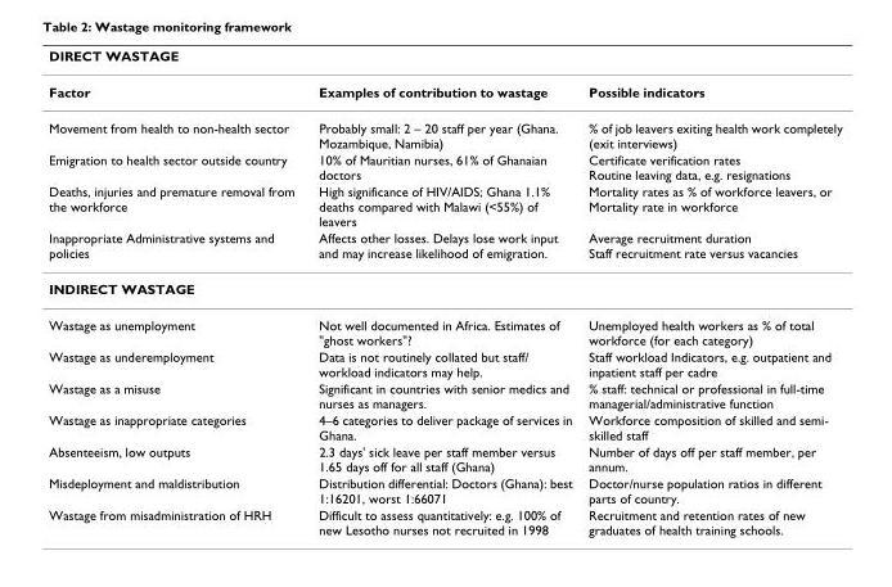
<table><thead><tr><td colspan="3">DIRECT WASTAGE</td></tr><tr><td>Factor</td><td>Examples of contribution to wastage</td><td>Possible indicators</td></tr></thead><tbody><tr><td>Movement from health to non-health sector</td><td>Probably small: 2 – 20 staff per year (Ghana. Mozambique, Namibia)</td><td>% of job leavers exiting health work completely (exit interviews)</td></tr><tr><td>Emigration to health sector outside country</td><td>10% of Mauritian nurses, 61% of Ghanaian doctors</td><td>Certificate verification rates Routine leaving data, e.g. resignations</td></tr><tr><td>Deaths, injuries and premature removal from the workforce</td><td>High significance of HIV/AIDS; Ghana 1.1% deaths compared with Malawi (&lt;55%) of leavers</td><td>Mortality rates as % of workforce leavers, or Mortality rate in workforce</td></tr><tr><td>Inappropriate Administrative systems and policies</td><td>Affects other losses. Delays lose work input and may increase likelihood of emigration.</td><td>Average recruitment duration Staff recruitment rate versus vacancies</td></tr><tr><td colspan="3">INDIRECT WASTAGE</td></tr><tr><td>Wastage as unemployment</td><td>Not well documented in Africa. Estimates of &quot;ghost workers&quot;?</td><td>Unemployed health workers as % of total workforce (for each category)</td></tr><tr><td>Wastage as underemployment</td><td>Data is not routinely collated but staff/ workload indicators may help.</td><td>Staff workload Indicators, e.g. outpatient and inpatient staff per cadre</td></tr><tr><td>Wastage as a misuse</td><td>Significant in countries with senior medics and nurses as managers.</td><td>% staff: technical or professional in full-time managerial/administrative function</td></tr><tr><td>Wastage as inappropriate categories</td><td>4–6 categories to deliver package of services in Ghana.</td><td>Workforce composition of skilled and semi- skilled staff</td></tr><tr><td>Absenteeism, low outputs</td><td>2.3 days&#x27; sick leave per staff member versus 1.65 days off for all staff (Ghana)</td><td>Number of days off per staff member, per annum.</td></tr><tr><td>Misdeployment and maldistribution</td><td>Distribution differential: Doctors (Ghana): best 1:16201, worst 1:66071</td><td>Doctor/nurse population ratios in different parts of country.</td></tr><tr><td>Wastage from misadministration of HRH</td><td>Difficult to assess quantitatively: e.g. 100% of new Lesotho nurses not recruited in 1998</td><td>Recruitment and retention rates of new graduates of health training schools.</td></tr></tbody></table>